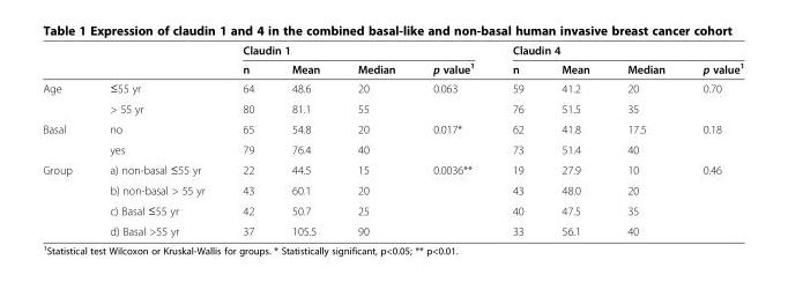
<table><thead><tr><td rowspan="2"></td><td rowspan="2"></td><td colspan="4">Claudin 1</td><td colspan="4">Claudin 4</td></tr><tr><td>n</td><td>Mean</td><td>Median</td><td>p value<sup>1</sup></td><td>n</td><td>Mean</td><td>Median</td><td>p value<sup>1</sup></td></tr></thead><tbody><tr><td rowspan="2">Age</td><td>≤55 yr</td><td>64</td><td>48.6</td><td>20</td><td>0.063</td><td>59</td><td>41.2</td><td>20</td><td>0.70</td></tr><tr><td>&gt; 55 yr</td><td>80</td><td>81.1</td><td>55</td><td></td><td>76</td><td>51.5</td><td>35</td><td></td></tr><tr><td rowspan="2">Basal</td><td>no</td><td>65</td><td>54.8</td><td>20</td><td>0.017*</td><td>62</td><td>41.8</td><td>17.5</td><td>0.18</td></tr><tr><td>yes</td><td>79</td><td>76.4</td><td>40</td><td></td><td>73</td><td>51.4</td><td>40</td><td></td></tr><tr><td rowspan="4">Group</td><td>a) non-basal ≤55 yr</td><td>22</td><td>44.5</td><td>15</td><td>0.0036**</td><td>19</td><td>27.9</td><td>10</td><td>0.46</td></tr><tr><td>b) non-basal &gt; 55 yr</td><td>43</td><td>60.1</td><td>20</td><td></td><td>43</td><td>48.0</td><td>20</td><td></td></tr><tr><td>c) Basal ≤55 yr</td><td>42</td><td>50.7</td><td>25</td><td></td><td>40</td><td>47.5</td><td>35</td><td></td></tr><tr><td>d) Basal &gt;55 yr</td><td>37</td><td>105.5</td><td>90</td><td></td><td>33</td><td>56.1</td><td>40</td><td></td></tr></tbody></table>